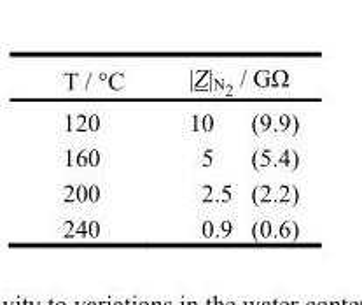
<table><thead><tr><td>T / °C</td><td>|Z|N2 / GΩ</td></tr></thead><tbody><tr><td>120</td><td>10 (9.9)</td></tr><tr><td>160</td><td>5 (5.4)</td></tr><tr><td>200</td><td>2.5 (2.2)</td></tr><tr><td>240</td><td>0.9 (0.6)</td></tr></tbody></table>